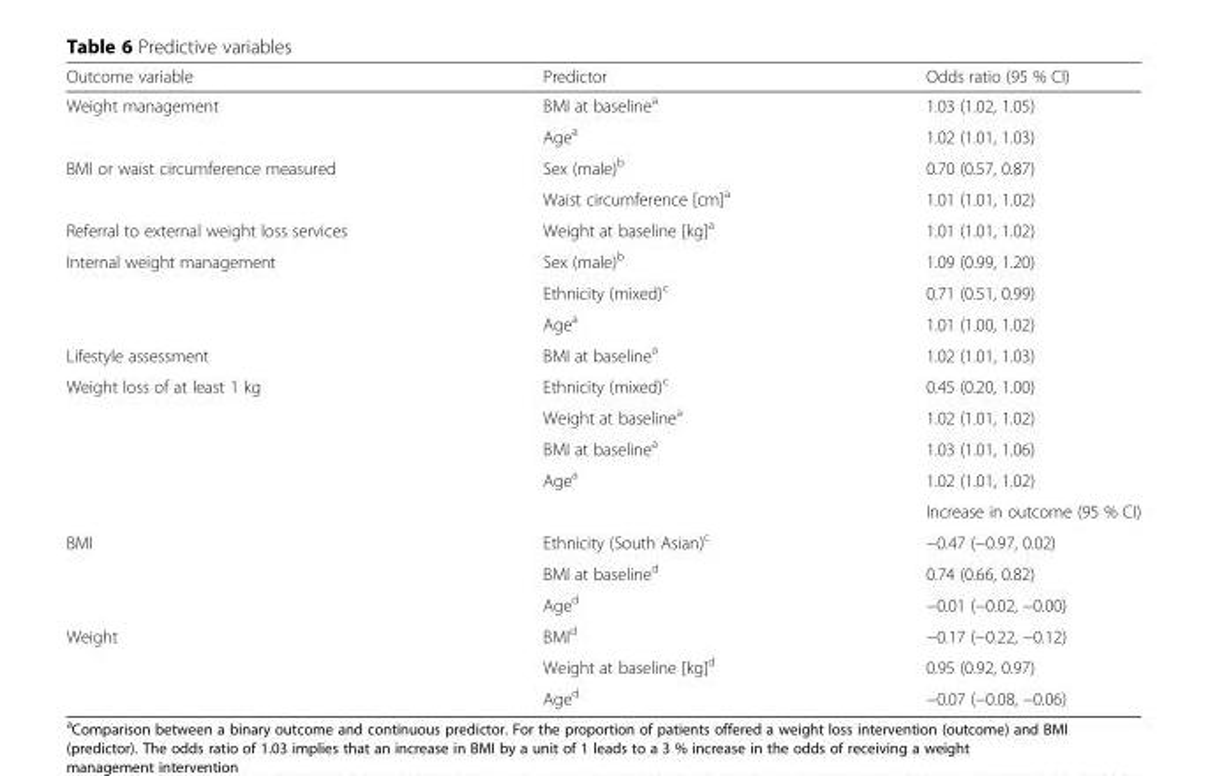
<table><thead><tr><td>Outcome variable</td><td>Predictor</td><td>Odds ratio (95 % CI)</td></tr></thead><tbody><tr><td rowspan="2">Weight management</td><td>BMI at baseline<sup>a</sup></td><td>1.03 (1.02, 1.05)</td></tr><tr><td>Age<sup>a</sup></td><td>1.02 (1.01, 1.03)</td></tr><tr><td rowspan="2">BMI or waist circumference measured</td><td>Sex (male)<sup>b</sup></td><td>0.70 (0.57, 0.87)</td></tr><tr><td>Waist circumference [cm]<sup>a</sup></td><td>1.01 (1.01, 1.02)</td></tr><tr><td>Referral to external weight loss services</td><td>Weight at baseline [kg]<sup>a</sup></td><td>1.01 (1.01, 1.02)</td></tr><tr><td rowspan="3">Internal weight management</td><td>Sex (male)<sup>b</sup></td><td>1.09 (0.99, 1.20)</td></tr><tr><td>Ethnicity (mixed)<sup>c</sup></td><td>0.71 (0.51, 0.99)</td></tr><tr><td>Age<sup>a</sup></td><td>1.01 (1.00, 1.02)</td></tr><tr><td>Lifestyle assessment</td><td>BMI at baseline<sup>a</sup></td><td>1.02 (1.01, 1.03)</td></tr><tr><td rowspan="5">Weight loss of at least 1 kg</td><td>Ethnicity (mixed)<sup>c</sup></td><td>0.45 (0.20, 1.00)</td></tr><tr><td>Weight at baseline<sup>a</sup></td><td>1.02 (1.01, 1.02)</td></tr><tr><td>BMI at baseline<sup>a</sup></td><td>1.03 (1.01, 1.06)</td></tr><tr><td>Age<sup>a</sup></td><td>1.02 (1.01, 1.02)</td></tr><tr><td></td><td>Increase in outcome (95 % CI)</td></tr><tr><td rowspan="3">BMI</td><td>Ethnicity (South Asian)<sup>c</sup></td><td>−0.47 (−0.97, 0.02)</td></tr><tr><td>BMI at baseline<sup>d</sup></td><td>0.74 (0.66, 0.82)</td></tr><tr><td>Age<sup>d</sup></td><td>−0.01 (−0.02, −0.00)</td></tr><tr><td rowspan="3">Weight</td><td>BMI<sup>d</sup></td><td>−0.17 (−0.22, −0.12)</td></tr><tr><td>Weight at baseline [kg]<sup>d</sup></td><td>0.95 (0.92, 0.97)</td></tr><tr><td>Age<sup>d</sup></td><td>−0.07 (−0.08, −0.06)</td></tr></tbody></table>